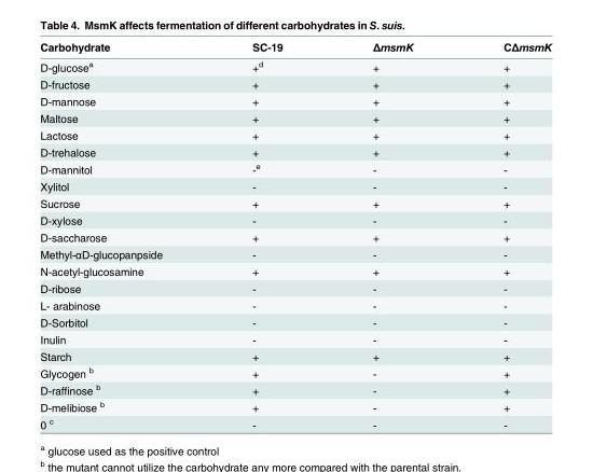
<table><thead><tr><td>Carbohydrate</td><td>SC-19</td><td>ΔmsmK</td><td>CΔmsmK</td></tr></thead><tbody><tr><td>D-glucose<sup>a</sup></td><td>+<sup>d</sup></td><td>+</td><td>+</td></tr><tr><td>D-fructose</td><td>+</td><td>+</td><td>+</td></tr><tr><td>D-mannose</td><td>+</td><td>+</td><td>+</td></tr><tr><td>Maltose</td><td>+</td><td>+</td><td>+</td></tr><tr><td>Lactose</td><td>+</td><td>+</td><td>+</td></tr><tr><td>D-trehalose</td><td>+</td><td>+</td><td>+</td></tr><tr><td>D-mannitol</td><td>-<sup>e</sup></td><td>-</td><td>-</td></tr><tr><td>Xylitol</td><td>-</td><td>-</td><td>-</td></tr><tr><td>Sucrose</td><td>+</td><td>+</td><td>+</td></tr><tr><td>D-xylose</td><td>-</td><td>-</td><td>-</td></tr><tr><td>D-saccharose</td><td>+</td><td>+</td><td>+</td></tr><tr><td>Methyl-αD-glucopanpside</td><td>-</td><td>-</td><td>-</td></tr><tr><td>N-acetyl-glucosamine</td><td>+</td><td>+</td><td>+</td></tr><tr><td>D-ribose</td><td>-</td><td>-</td><td>-</td></tr><tr><td>L- arabinose</td><td>-</td><td>-</td><td>-</td></tr><tr><td>D-Sorbitol</td><td>-</td><td>-</td><td>-</td></tr><tr><td>Inulin</td><td>-</td><td>-</td><td>-</td></tr><tr><td>Starch</td><td>+</td><td>+</td><td>+</td></tr><tr><td>Glycogen <sup>b</sup></td><td>+</td><td>-</td><td>+</td></tr><tr><td>D-raffinose <sup>b</sup></td><td>+</td><td>-</td><td>+</td></tr><tr><td>D-melibiose <sup>b</sup></td><td>+</td><td>-</td><td>+</td></tr><tr><td>0 <sup>c</sup></td><td>-</td><td>-</td><td>-</td></tr></tbody></table>